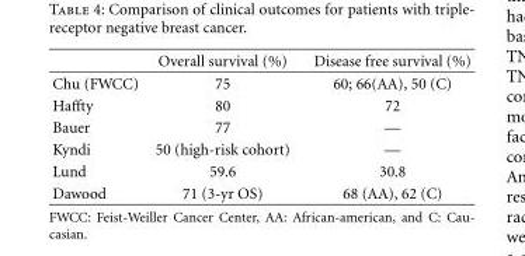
<table><thead><tr><td></td><td>Overall survival (%)</td><td>Disease free survival (%)</td></tr></thead><tbody><tr><td>Chu (FWCC)</td><td>75</td><td>60; 66(AA), 50 (C)</td></tr><tr><td>Haffty</td><td>80</td><td>72</td></tr><tr><td>Bauer</td><td>77</td><td>—</td></tr><tr><td>Kyndi</td><td>50 (high-risk cohort)</td><td>—</td></tr><tr><td>Lund</td><td>59.6</td><td>30.8</td></tr><tr><td>Dawood</td><td>71 (3-yr OS)</td><td>68 (AA), 62 (C)</td></tr></tbody></table>